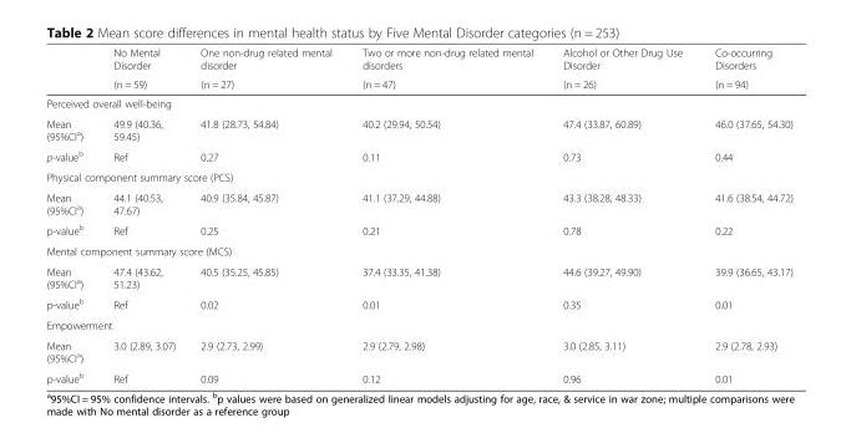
<table><thead><tr><td rowspan="2"></td><td rowspan="2">No Mental Disorder (n = 59)</td><td rowspan="2">One non-drug related mental disorder (n = 27)</td><td rowspan="2">Two or more non-drug related mental disorders (n = 47)</td><td rowspan="2">Alcohol or Other Drug Use Disorder (n = 26)</td><td rowspan="2">Co-occurring Disorders (n = 94)</td></tr><tr></tr></thead><tbody><tr><td colspan="6">Perceived overall well-being</td></tr><tr><td>Mean (95%CI<sup>a</sup>)</td><td>49.9 (40.36, 59.45)</td><td>41.8 (28.73, 54.84)</td><td>40.2 (29.94, 50.54)</td><td>47.4 (33.87, 60.89)</td><td>46.0 (37.65, 54.30)</td></tr><tr><td>p-value<sup>b</sup></td><td>Ref</td><td>0.27</td><td>0.11</td><td>0.73</td><td>0.44</td></tr><tr><td colspan="6">Physical component summary score (PCS)</td></tr><tr><td>Mean (95%CI<sup>a</sup>)</td><td>44.1 (40.53, 47.67)</td><td>40.9 (35.84, 45.87)</td><td>41.1 (37.29, 44.88)</td><td>43.3 (38.28, 48.33)</td><td>41.6 (38.54, 44.72)</td></tr><tr><td>p-value<sup>b</sup></td><td>Ref</td><td>0.25</td><td>0.21</td><td>0.78</td><td>0.22</td></tr><tr><td colspan="6">Mental component summary score (MCS)</td></tr><tr><td>Mean (95%CI<sup>a</sup>)</td><td>47.4 (43.62, 51.23)</td><td>40.5 (35.25, 45.85)</td><td>37.4 (33.35, 41.38)</td><td>44.6 (39.27, 49.90)</td><td>39.9 (36.65, 43.17)</td></tr><tr><td>p-value<sup>b</sup></td><td>Ref</td><td>0.02</td><td>0.01</td><td>0.35</td><td>0.01</td></tr><tr><td colspan="6">Empowerment</td></tr><tr><td>Mean (95%CI<sup>a</sup>)</td><td>3.0 (2.89, 3.07)</td><td>2.9 (2.73, 2.99)</td><td>2.9 (2.79, 2.98)</td><td>3.0 (2.85, 3.11)</td><td>2.9 (2.78, 2.93)</td></tr><tr><td>p-value<sup>b</sup></td><td>Ref</td><td>0.09</td><td>0.12</td><td>0.96</td><td>0.01</td></tr></tbody></table>